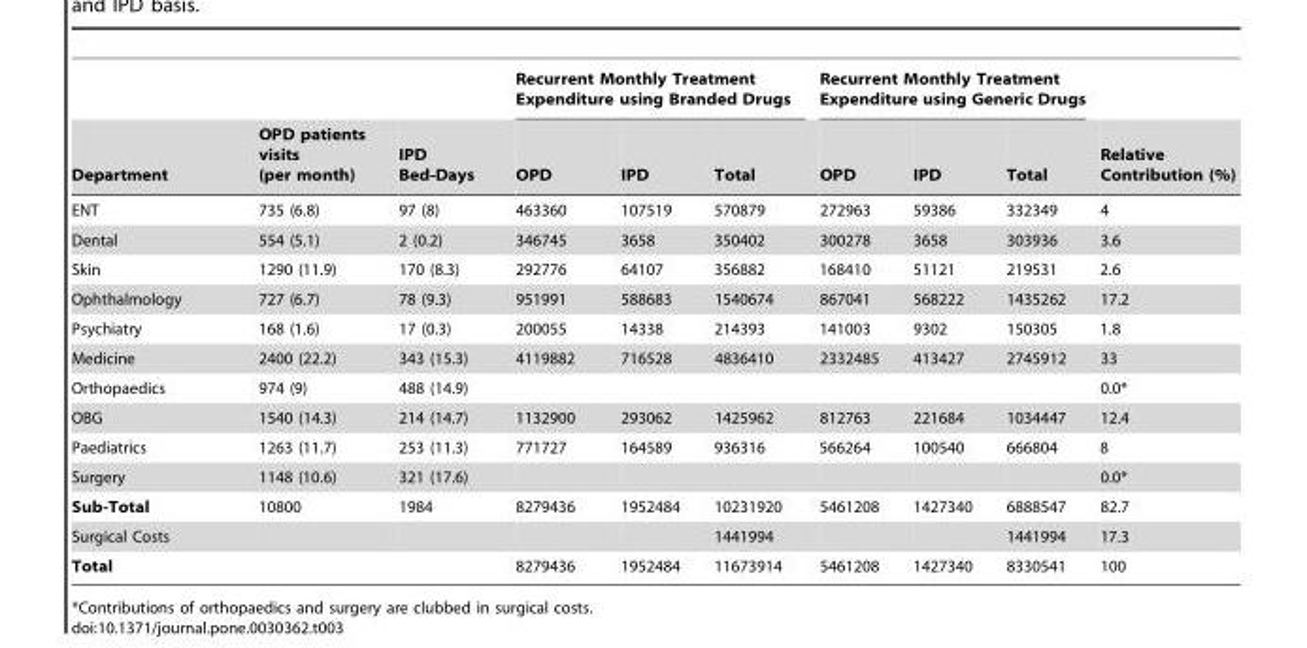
<table><thead><tr><td rowspan="2">Department</td><td rowspan="2">OPD patients visits (per month)</td><td rowspan="2">IPD Bed-Days</td><td colspan="3">Recurrent Monthly Treatment Expenditure using Branded Drugs</td><td colspan="3">Recurrent Monthly Treatment Expenditure using Generic Drugs</td><td rowspan="2">Relative Contribution (%)</td></tr><tr><td>OPD</td><td>IPD</td><td>Total</td><td>OPD</td><td>IPD</td><td>Total</td></tr></thead><tbody><tr><td>ENT</td><td>735 (6.8)</td><td>97 (8)</td><td>463360</td><td>107519</td><td>570879</td><td>272963</td><td>59386</td><td>332349</td><td>4</td></tr><tr><td>Dental</td><td>554 (5.1)</td><td>2 (0.2)</td><td>346745</td><td>3658</td><td>350402</td><td>300278</td><td>3658</td><td>303936</td><td>3.6</td></tr><tr><td>Skin</td><td>1290 (11.9)</td><td>170 (8.3)</td><td>292776</td><td>64107</td><td>356882</td><td>168410</td><td>51121</td><td>219531</td><td>2.6</td></tr><tr><td>Ophthalmology</td><td>727 (6.7)</td><td>78 (9.3)</td><td>951991</td><td>588683</td><td>1540674</td><td>867041</td><td>568222</td><td>1435262</td><td>17.2</td></tr><tr><td>Psychiatry</td><td>168 (1.6)</td><td>17 (0.3)</td><td>200055</td><td>14338</td><td>214393</td><td>141003</td><td>9302</td><td>150305</td><td>1.8</td></tr><tr><td>Medicine</td><td>2400 (22.2)</td><td>343 (15.3)</td><td>4119882</td><td>716528</td><td>4836410</td><td>2332485</td><td>413427</td><td>2745912</td><td>33</td></tr><tr><td>Orthopaedics</td><td>974 (9)</td><td>488 (14.9)</td><td></td><td></td><td></td><td></td><td></td><td></td><td>0.0*</td></tr><tr><td>OBG</td><td>1540 (14.3)</td><td>214 (14.7)</td><td>1132900</td><td>293062</td><td>1425962</td><td>812763</td><td>221684</td><td>1034447</td><td>12.4</td></tr><tr><td>Paediatrics</td><td>1263 (11.7)</td><td>253 (11.3)</td><td>771727</td><td>164589</td><td>936316</td><td>566264</td><td>100540</td><td>666804</td><td>8</td></tr><tr><td>Surgery</td><td>1148 (10.6)</td><td>321 (17.6)</td><td></td><td></td><td></td><td></td><td></td><td></td><td>0.0*</td></tr><tr><td>Sub-Total</td><td>10800</td><td>1984</td><td>8279436</td><td>1952484</td><td>10231920</td><td>5461208</td><td>1427340</td><td>6888547</td><td>82.7</td></tr><tr><td>Surgical Costs</td><td></td><td></td><td></td><td></td><td>1441994</td><td></td><td></td><td>1441994</td><td>17.3</td></tr><tr><td>Total</td><td></td><td></td><td>8279436</td><td>1952484</td><td>11673914</td><td>5461208</td><td>1427340</td><td>8330541</td><td>100</td></tr></tbody></table>